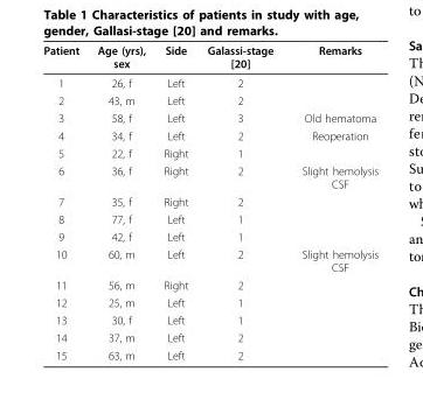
<table><thead><tr><td>Patient</td><td>Age (yrs), sex</td><td>Side</td><td>Galassi-stage [20]</td><td>Remarks</td></tr></thead><tbody><tr><td>1</td><td>26, f</td><td>Left</td><td>2</td><td></td></tr><tr><td>2</td><td>43, m</td><td>Left</td><td>2</td><td></td></tr><tr><td>3</td><td>58, f</td><td>Left</td><td>3</td><td>Old hematoma</td></tr><tr><td>4</td><td>34, f</td><td>Left</td><td>2</td><td>Reoperation</td></tr><tr><td>5</td><td>22, f</td><td>Right</td><td>1</td><td></td></tr><tr><td>6</td><td>36, f</td><td>Right</td><td>2</td><td>Slight hemolysis CSF</td></tr><tr><td>7</td><td>35, f</td><td>Right</td><td>2</td><td></td></tr><tr><td>8</td><td>77, f</td><td>Left</td><td>1</td><td></td></tr><tr><td>9</td><td>42, f</td><td>Left</td><td>1</td><td></td></tr><tr><td>10</td><td>60, m</td><td>Left</td><td>2</td><td>Slight hemolysis CSF</td></tr><tr><td>11</td><td>56, m</td><td>Right</td><td>2</td><td></td></tr><tr><td>12</td><td>25, m</td><td>Left</td><td>1</td><td></td></tr><tr><td>13</td><td>30, f</td><td>Left</td><td>1</td><td></td></tr><tr><td>14</td><td>37, m</td><td>Left</td><td>2</td><td></td></tr><tr><td>15</td><td>63, m</td><td>Left</td><td>2</td><td></td></tr></tbody></table>